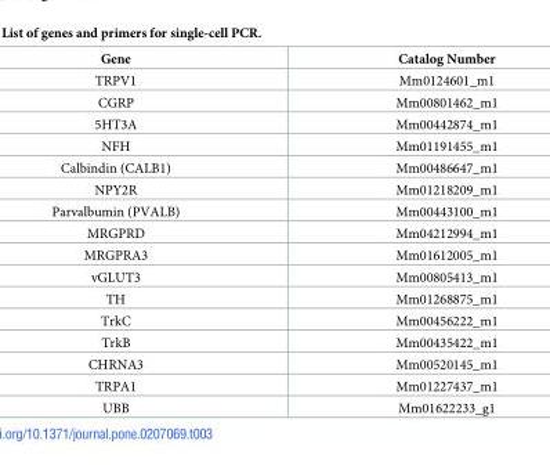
<table><thead><tr><td>Gene</td><td>Catalog Number</td></tr></thead><tbody><tr><td>TRPV1</td><td>Mm0124601_m1</td></tr><tr><td>CGRP</td><td>Mm00801462_m1</td></tr><tr><td>5HT3A</td><td>Mm00442874_m1</td></tr><tr><td>NFH</td><td>Mm01191455_m1</td></tr><tr><td>Calbindin (CALB1)</td><td>Mm00486647_m1</td></tr><tr><td>NPY2R</td><td>Mm01218209_m1</td></tr><tr><td>Parvalbumin (PVALB)</td><td>Mm00443100_m1</td></tr><tr><td>MRGPRD</td><td>Mm04212994_m1</td></tr><tr><td>MRGPRA3</td><td>Mm01612005_m1</td></tr><tr><td>vGLUT3</td><td>Mm00805413_m1</td></tr><tr><td>TH</td><td>Mm01268875_m1</td></tr><tr><td>TrkC</td><td>Mm00456222_m1</td></tr><tr><td>TrkB</td><td>Mm00435422_m1</td></tr><tr><td>CHRNA3</td><td>Mm00520145_m1</td></tr><tr><td>TRPA1</td><td>Mm01227437_m1</td></tr><tr><td>UBB</td><td>Mm01622233_g1</td></tr></tbody></table>